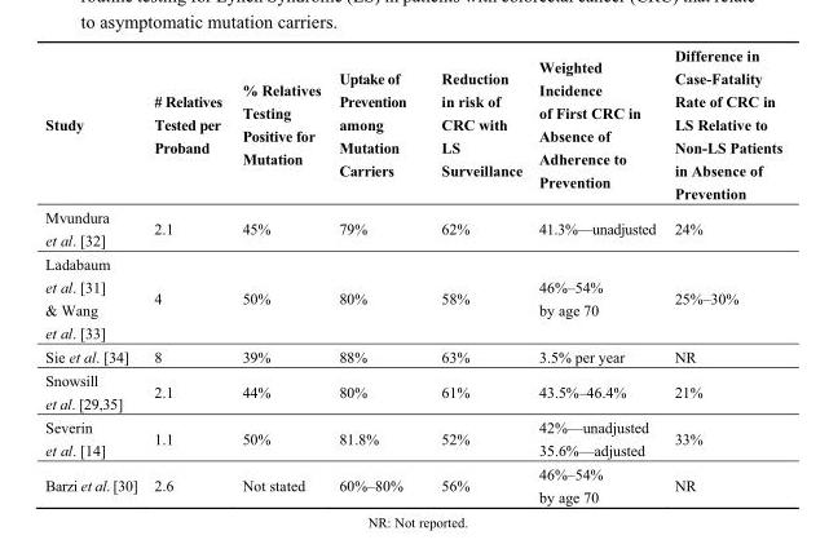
<table><thead><tr><td>Study</td><td># Relatives Tested per Proband</td><td>% Relatives Testing Positive for Mutation</td><td>Uptake of Prevention among Mutation Carriers</td><td>Reduction in risk of CRC with LS Surveillance</td><td>Weighted Incidence of First CRC in Absence of Adherence to Prevention</td><td>Difference in Case-Fatality Rate of CRC in LS Relative to Non-LS Patients in Absence of Prevention</td></tr></thead><tbody><tr><td>Mvundura et al. [32]</td><td>2.1</td><td>45%</td><td>79%</td><td>62%</td><td>41.3%—unadjusted</td><td>24%</td></tr><tr><td>Ladabaum et al. [31] &amp; Wang et al. [33]</td><td>4</td><td>50%</td><td>80%</td><td>58%</td><td>46%–54% by age 70</td><td>25%–30%</td></tr><tr><td>Sie et al. [34]</td><td>8</td><td>39%</td><td>88%</td><td>63%</td><td>3.5% per year</td><td>NR</td></tr><tr><td>Snowsill et al. [29,35]</td><td>2.1</td><td>44%</td><td>80%</td><td>61%</td><td>43.5%–46.4%</td><td>21%</td></tr><tr><td>Severin et al. [14]</td><td>1.1</td><td>50%</td><td>81.8%</td><td>52%</td><td>42%—unadjusted 35.6%—adjusted</td><td>33%</td></tr><tr><td>Barzi et al. [30]</td><td>2.6</td><td>Not stated</td><td>60%–80%</td><td>56%</td><td>46%–54% by age 70</td><td>NR</td></tr></tbody></table>